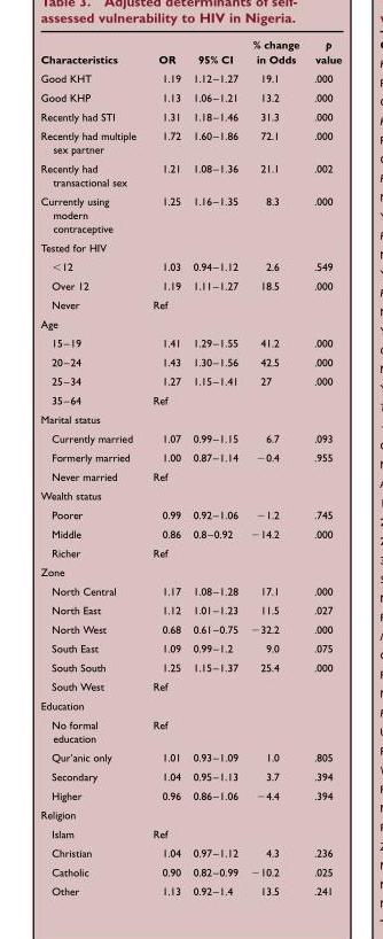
<table><thead><tr><td>Characteristics</td><td>OR</td><td>95% CI</td><td>% change in Odds</td><td>p value</td></tr></thead><tbody><tr><td>Good KHT</td><td>1.19</td><td>1.12–1.27</td><td>19.1</td><td>.000</td></tr><tr><td>Good KHP</td><td>1.13</td><td>1.06–1.21</td><td>13.2</td><td>.000</td></tr><tr><td>Recently had STI</td><td>1.31</td><td>1.18–1.46</td><td>31.3</td><td>.000</td></tr><tr><td>Recently had multiple sex partner</td><td>1.72</td><td>1.60–1.86</td><td>72.1</td><td>.000</td></tr><tr><td>Recently had transactional sex</td><td>1.21</td><td>1.08–1.36</td><td>21.1</td><td>.002</td></tr><tr><td>Currently using modern contraceptive</td><td>1.25</td><td>1.16–1.35</td><td>8.3</td><td>.000</td></tr><tr><td colspan="5">Tested for HIV</td></tr><tr><td>&lt;12</td><td>1.03</td><td>0.94–1.12</td><td>2.6</td><td>.549</td></tr><tr><td>Over 12</td><td>1.19</td><td>1.11–1.27</td><td>18.5</td><td>.000</td></tr><tr><td>Never</td><td>Ref</td><td></td><td></td><td></td></tr><tr><td colspan="5">Age</td></tr><tr><td>15–19</td><td>1.41</td><td>1.29–1.55</td><td>41.2</td><td>.000</td></tr><tr><td>20–24</td><td>1.43</td><td>1.30–1.56</td><td>42.5</td><td>.000</td></tr><tr><td>25–34</td><td>1.27</td><td>1.15–1.41</td><td>27</td><td>.000</td></tr><tr><td>35–64</td><td>Ref</td><td></td><td></td><td></td></tr><tr><td colspan="5">Marital status</td></tr><tr><td>Currently married</td><td>1.07</td><td>0.99–1.15</td><td>6.7</td><td>.093</td></tr><tr><td>Formerly married</td><td>1.00</td><td>0.87–1.14</td><td>−0.4</td><td>.955</td></tr><tr><td>Never married</td><td>Ref</td><td></td><td></td><td></td></tr><tr><td colspan="5">Wealth status</td></tr><tr><td>Poorer</td><td>0.99</td><td>0.92–1.06</td><td>−1.2</td><td>.745</td></tr><tr><td>Middle</td><td>0.86</td><td>0.8–0.92</td><td>−14.2</td><td>.000</td></tr><tr><td>Richer</td><td>Ref</td><td></td><td></td><td></td></tr><tr><td colspan="5">Zone</td></tr><tr><td>North Central</td><td>1.17</td><td>1.08–1.28</td><td>17.1</td><td>.000</td></tr><tr><td>North East</td><td>1.12</td><td>1.01–1.23</td><td>11.5</td><td>.027</td></tr><tr><td>North West</td><td>0.68</td><td>0.61–0.75</td><td>−32.2</td><td>.000</td></tr><tr><td>South East</td><td>1.09</td><td>0.99–1.2</td><td>9.0</td><td>.075</td></tr><tr><td>South South</td><td>1.25</td><td>1.15–1.37</td><td>25.4</td><td>.000</td></tr><tr><td>South West</td><td>Ref</td><td></td><td></td><td></td></tr><tr><td colspan="5">Education</td></tr><tr><td>No formal education</td><td>Ref</td><td></td><td></td><td></td></tr><tr><td>Qur’anic only</td><td>1.01</td><td>0.93–1.09</td><td>1.0</td><td>.805</td></tr><tr><td>Secondary</td><td>1.04</td><td>0.95–1.13</td><td>3.7</td><td>.394</td></tr><tr><td>Higher</td><td>0.96</td><td>0.86–1.06</td><td>−4.4</td><td>.394</td></tr><tr><td colspan="5">Religion</td></tr><tr><td>Islam</td><td>Ref</td><td></td><td></td><td></td></tr><tr><td>Christian</td><td>1.04</td><td>0.97–1.12</td><td>4.3</td><td>.236</td></tr><tr><td>Catholic</td><td>0.90</td><td>0.82–0.99</td><td>−10.2</td><td>.025</td></tr><tr><td>Other</td><td>1.13</td><td>0.92–1.4</td><td>13.5</td><td>.241</td></tr></tbody></table>